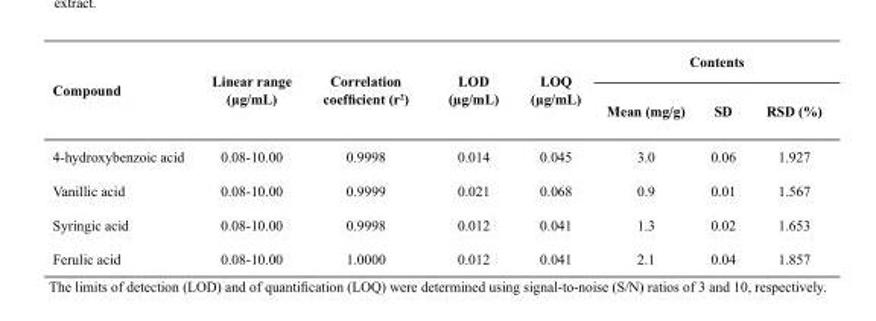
<table><thead><tr><td rowspan="2">Compound</td><td rowspan="2">Linear range (µg/mL)</td><td rowspan="2">Correlation coefficient (r<sup>2</sup>)</td><td rowspan="2">LOD (µg/mL)</td><td rowspan="2">LOQ (µg/mL)</td><td colspan="3">Contents</td></tr><tr><td>Mean (mg/g)</td><td>SD</td><td>RSD (%)</td></tr></thead><tbody><tr><td>4-hydroxybenzoic acid</td><td>0.08-10.00</td><td>0.9998</td><td>0.014</td><td>0.045</td><td>3.0</td><td>0.06</td><td>1.927</td></tr><tr><td>Vanillic acid</td><td>0.08-10.00</td><td>0.9999</td><td>0.021</td><td>0.068</td><td>0.9</td><td>0.01</td><td>1.567</td></tr><tr><td>Syringic acid</td><td>0.08-10.00</td><td>0.9998</td><td>0.012</td><td>0.041</td><td>1.3</td><td>0.02</td><td>1.653</td></tr><tr><td>Ferulic acid</td><td>0.08-10.00</td><td>1.0000</td><td>0.012</td><td>0.041</td><td>2.1</td><td>0.04</td><td>1.857</td></tr></tbody></table>